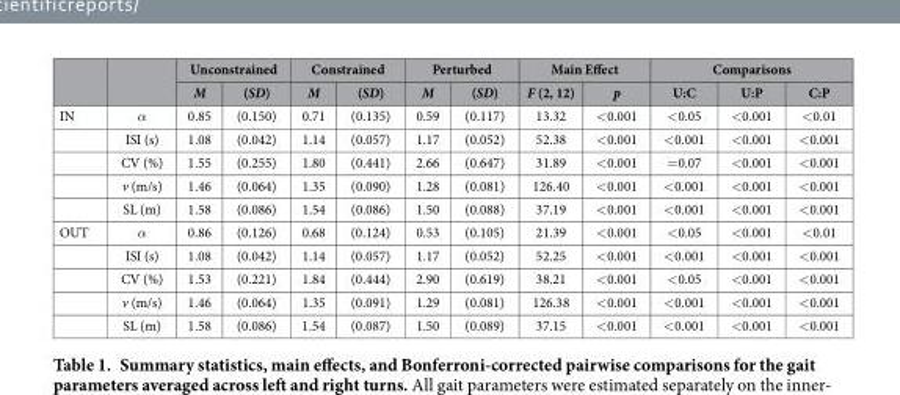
<table><thead><tr><td rowspan="2"></td><td rowspan="2"></td><td colspan="2">Unconstrained</td><td colspan="2">Constrained</td><td colspan="2">Perturbed</td><td colspan="2">Main Effect</td><td colspan="3">Comparisons</td></tr><tr><td>M</td><td>(SD)</td><td>M</td><td>(SD)</td><td>M</td><td>(SD)</td><td>F (2, 12)</td><td>p</td><td>U:C</td><td>U:P</td><td>C:P</td></tr></thead><tbody><tr><td rowspan="5">IN</td><td>α</td><td>0.85</td><td>(0.150)</td><td>0.71</td><td>(0.135)</td><td>0.59</td><td>(0.117)</td><td>13.32</td><td>&lt; 0.001</td><td>&lt; 0.05</td><td>&lt; 0.001</td><td>&lt; 0.01</td></tr><tr><td>ISI (s)</td><td>1.08</td><td>(0.042)</td><td>1.14</td><td>(0.057)</td><td>1.17</td><td>(0.052)</td><td>52.38</td><td>&lt; 0.001</td><td>&lt; 0.001</td><td>&lt; 0.001</td><td>&lt; 0.001</td></tr><tr><td>CV (%)</td><td>1.55</td><td>(0.255)</td><td>1.80</td><td>(0.441)</td><td>2.66</td><td>(0.647)</td><td>31.89</td><td>&lt; 0.001</td><td>= 0.07</td><td>&lt; 0.001</td><td>&lt; 0.001</td></tr><tr><td>v (m/s)</td><td>1.46</td><td>(0.064)</td><td>1.35</td><td>(0.090)</td><td>1.28</td><td>(0.081)</td><td>126.40</td><td>&lt; 0.001</td><td>&lt; 0.001</td><td>&lt; 0.001</td><td>&lt; 0.001</td></tr><tr><td>SL (m)</td><td>1.58</td><td>(0.086)</td><td>1.54</td><td>(0.086)</td><td>1.50</td><td>(0.088)</td><td>37.19</td><td>&lt; 0.001</td><td>&lt; 0.001</td><td>&lt; 0.001</td><td>&lt; 0.001</td></tr><tr><td rowspan="5">OUT</td><td>α</td><td>0.86</td><td>(0.126)</td><td>0.68</td><td>(0.124)</td><td>0.53</td><td>(0.105)</td><td>21.39</td><td>&lt; 0.001</td><td>&lt; 0.05</td><td>&lt; 0.001</td><td>&lt; 0.01</td></tr><tr><td>ISI (s)</td><td>1.08</td><td>(0.042)</td><td>1.14</td><td>(0.057)</td><td>1.17</td><td>(0.052)</td><td>52.25</td><td>&lt; 0.001</td><td>&lt; 0.001</td><td>&lt; 0.001</td><td>&lt; 0.001</td></tr><tr><td>CV (%)</td><td>1.53</td><td>(0.221)</td><td>1.84</td><td>(0.444)</td><td>2.90</td><td>(0.619)</td><td>38.21</td><td>&lt; 0.001</td><td>&lt; 0.05</td><td>&lt; 0.001</td><td>&lt; 0.001</td></tr><tr><td>v (m/s)</td><td>1.46</td><td>(0.064)</td><td>1.35</td><td>(0.091)</td><td>1.29</td><td>(0.081)</td><td>126.38</td><td>&lt; 0.001</td><td>&lt; 0.001</td><td>&lt; 0.001</td><td>&lt; 0.001</td></tr><tr><td>SL (m)</td><td>1.58</td><td>(0.086)</td><td>1.54</td><td>(0.087)</td><td>1.50</td><td>(0.089)</td><td>37.15</td><td>&lt; 0.001</td><td>&lt; 0.001</td><td>&lt; 0.001</td><td>&lt; 0.001</td></tr></tbody></table>